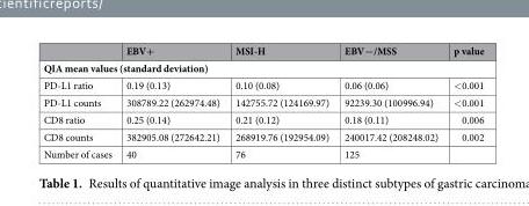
<table><thead><tr><td></td><td>EBV+</td><td>MSI-H</td><td>EBV−/MSS</td><td>p value</td></tr></thead><tbody><tr><td colspan="5">QIA mean values (standard deviation)</td></tr><tr><td>PD-L1 ratio</td><td>0.19 (0.13)</td><td>0.10 (0.08)</td><td>0.06 (0.06)</td><td>&lt;0.001</td></tr><tr><td>PD-L1 counts</td><td>308789.22 (262974.48)</td><td>142755.72 (124169.97)</td><td>92239.30 (100996.94)</td><td>&lt;0.001</td></tr><tr><td>CD8 ratio</td><td>0.25 (0.14)</td><td>0.21 (0.12)</td><td>0.18 (0.11)</td><td>0.006</td></tr><tr><td>CD8 counts</td><td>382905.08 (272642.21)</td><td>268919.76 (192954.09)</td><td>240017.42 (208248.02)</td><td>0.002</td></tr><tr><td>Number of cases</td><td>40</td><td>76</td><td>125</td><td></td></tr></tbody></table>